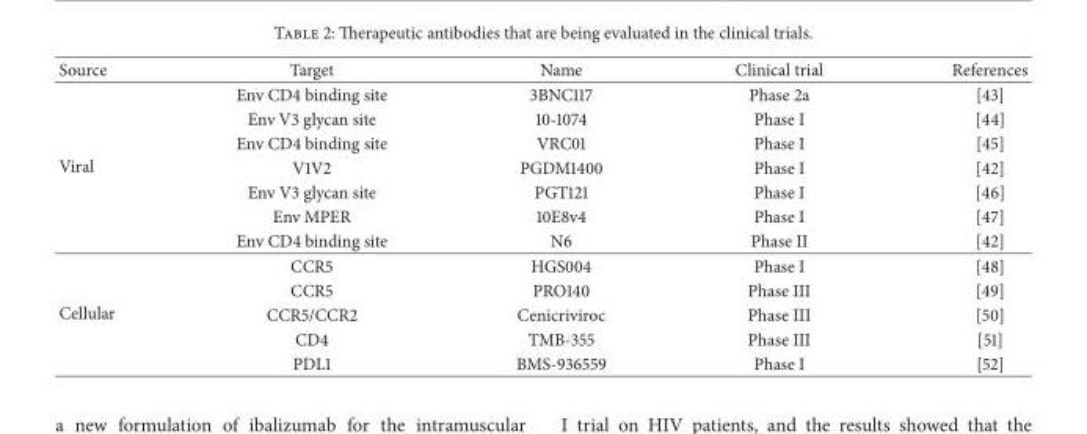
<table><thead><tr><td>Source</td><td>Target</td><td>Name</td><td>Clinical trial</td><td>References</td></tr></thead><tbody><tr><td rowspan="7">Viral</td><td>Env CD4 binding site</td><td>3BNC117</td><td>Phase 2a</td><td>[43]</td></tr><tr><td>Env V3 glycan site</td><td>10-1074</td><td>Phase I</td><td>[44]</td></tr><tr><td>Env CD4 binding site</td><td>VRC01</td><td>Phase I</td><td>[45]</td></tr><tr><td>V1V2</td><td>PGDM1400</td><td>Phase I</td><td>[42]</td></tr><tr><td>Env V3 glycan site</td><td>PGT121</td><td>Phase I</td><td>[46]</td></tr><tr><td>Env MPER</td><td>10E8v4</td><td>Phase I</td><td>[47]</td></tr><tr><td>Env CD4 binding site</td><td>N6</td><td>Phase II</td><td>[42]</td></tr><tr><td rowspan="5">Cellular</td><td>CCR5</td><td>HGS004</td><td>Phase I</td><td>[48]</td></tr><tr><td>CCR5</td><td>PRO140</td><td>Phase III</td><td>[49]</td></tr><tr><td>CCR5/CCR2</td><td>Cenicriviroc</td><td>Phase III</td><td>[50]</td></tr><tr><td>CD4</td><td>TMB-355</td><td>Phase III</td><td>[51]</td></tr><tr><td>PDL1</td><td>BMS-936559</td><td>Phase I</td><td>[52]</td></tr></tbody></table>